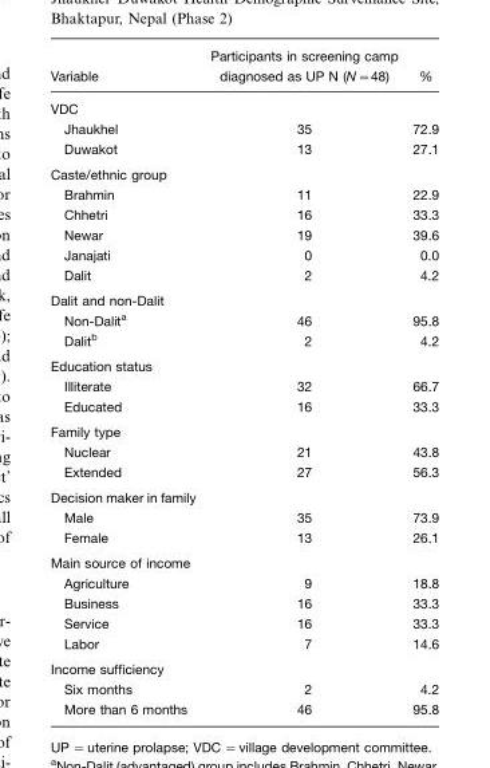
<table><thead><tr><td>Variable</td><td>Participants in screening camp diagnosed as UP N (N=48)</td><td>%</td></tr></thead><tbody><tr><td colspan="3">VDC</td></tr><tr><td>Jhaukhel</td><td>35</td><td>72.9</td></tr><tr><td>Duwakot</td><td>13</td><td>27.1</td></tr><tr><td colspan="3">Caste/ethnic group</td></tr><tr><td>Brahmin</td><td>11</td><td>22.9</td></tr><tr><td>Chhetri</td><td>16</td><td>33.3</td></tr><tr><td>Newar</td><td>19</td><td>39.6</td></tr><tr><td>Janajati</td><td>0</td><td>0.0</td></tr><tr><td>Dalit</td><td>2</td><td>4.2</td></tr><tr><td colspan="3">Dalit and non-Dalit</td></tr><tr><td>Non-Dalit<sup>a</sup></td><td>46</td><td>95.8</td></tr><tr><td>Dalit<sup>b</sup></td><td>2</td><td>4.2</td></tr><tr><td colspan="3">Education status</td></tr><tr><td>Illiterate</td><td>32</td><td>66.7</td></tr><tr><td>Educated</td><td>16</td><td>33.3</td></tr><tr><td colspan="3">Family type</td></tr><tr><td>Nuclear</td><td>21</td><td>43.8</td></tr><tr><td>Extended</td><td>27</td><td>56.3</td></tr><tr><td colspan="3">Decision maker in family</td></tr><tr><td>Male</td><td>35</td><td>73.9</td></tr><tr><td>Female</td><td>13</td><td>26.1</td></tr><tr><td colspan="3">Main source of income</td></tr><tr><td>Agriculture</td><td>9</td><td>18.8</td></tr><tr><td>Business</td><td>16</td><td>33.3</td></tr><tr><td>Service</td><td>16</td><td>33.3</td></tr><tr><td>Labor</td><td>7</td><td>14.6</td></tr><tr><td colspan="3">Income sufficiency</td></tr><tr><td>Six months</td><td>2</td><td>4.2</td></tr><tr><td>More than 6 months</td><td>46</td><td>95.8</td></tr></tbody></table>